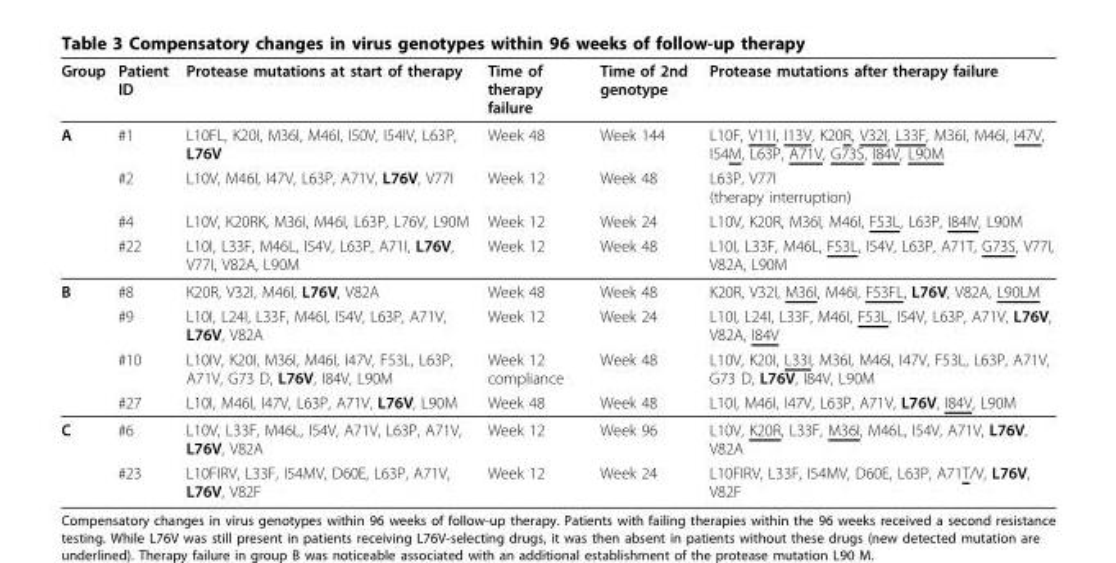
<table><thead><tr><td>Group</td><td>Patient ID</td><td>Protease mutations at start of therapy</td><td>Time of therapy failure</td><td>Time of 2nd genotype</td><td>Protease mutations after therapy failure</td></tr></thead><tbody><tr><td rowspan="4">A</td><td>#1</td><td>L10FL, K20I, M36I, M46I, I50V, I54IV, L63P, L76V</td><td>Week 48</td><td>Week 144</td><td>L10F, V11I, I13V, K20R, V32I, L33F, M36I, M46I, I47V, I54M, L63P, A71V, G73S, I84V, L90M</td></tr><tr><td>#2</td><td>L10V, M46I, I47V, L63P, A71V, L76V, V77I</td><td>Week 12</td><td>Week 48</td><td>L63P, V77I (therapy interruption)</td></tr><tr><td>#4</td><td>L10V, K20RK, M36I, M46I, L63P, L76V, L90M</td><td>Week 12</td><td>Week 24</td><td>L10V, K20R, M36I, M46I, F53L, L63P, I84IV, L90M</td></tr><tr><td>#22</td><td>L10I, L33F, M46L, I54V, L63P, A71I, L76V, V77I, V82A, L90M</td><td>Week 12</td><td>Week 48</td><td>L10I, L33F, M46L, F53L, I54V, L63P, A71T, G73S, V77I, V82A, L90M</td></tr><tr><td rowspan="4">B</td><td>#8</td><td>K20R, V32I, M46I, L76V, V82A</td><td>Week 48</td><td>Week 48</td><td>K20R, V32I, M36I, M46I, F53FL, L76V, V82A, L90LM</td></tr><tr><td>#9</td><td>L10I, L24I, L33F, M46I, I54V, L63P, A71V, L76V, V82A</td><td>Week 12</td><td>Week 24</td><td>L10I, L24I, L33F, M46I, F53L, I54V, L63P, A71V, L76V, V82A, I84V</td></tr><tr><td>#10</td><td>L10IV, K20I, M36I, M46I, I47V, F53L, L63P, A71V, G73 D, L76V, I84V, L90M</td><td>Week 12 compliance</td><td>Week 48</td><td>L10V, K20I, L33I, M36I, M46I, I47V, F53L, L63P, A71V, G73 D, L76V, I84V, L90M</td></tr><tr><td>#27</td><td>L10I, M46I, I47V, L63P, A71V, L76V, L90M</td><td>Week 48</td><td>Week 48</td><td>L10I, M46I, I47V, L63P, A71V, L76V, I84V, L90M</td></tr><tr><td rowspan="2">C</td><td>#6</td><td>L10V, L33F, M46L, I54V, A71V, L63P, A71V, L76V, V82A</td><td>Week 12</td><td>Week 96</td><td>L10V, K20R, L33F, M36I, M46L, I54V, A71V, L76V, V82A</td></tr><tr><td>#23</td><td>L10FIRV, L33F, I54MV, D60E, L63P, A71V, L76V, V82F</td><td>Week 12</td><td>Week 24</td><td>L10FIRV, L33F, I54MV, D60E, L63P, A71T/V, L76V, V82F</td></tr></tbody></table>